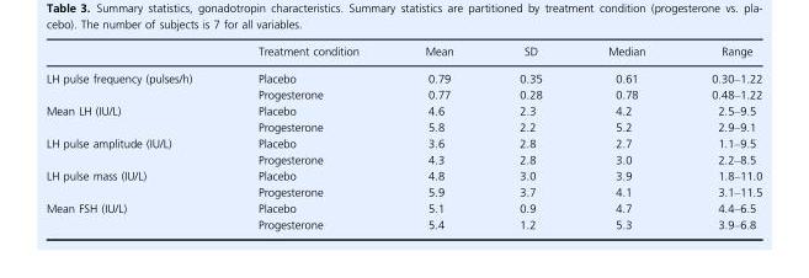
<table><thead><tr><td></td><td>Treatment condition</td><td>Mean</td><td>SD</td><td>Median</td><td>Range</td></tr></thead><tbody><tr><td rowspan="2">LH pulse frequency (pulses/h)</td><td>Placebo</td><td>0.79</td><td>0.35</td><td>0.61</td><td>0.30–1.22</td></tr><tr><td>Progesterone</td><td>0.77</td><td>0.28</td><td>0.78</td><td>0.48–1.22</td></tr><tr><td rowspan="2">Mean LH (IU/L)</td><td>Placebo</td><td>4.6</td><td>2.3</td><td>4.2</td><td>2.5–9.5</td></tr><tr><td>Progesterone</td><td>5.8</td><td>2.2</td><td>5.2</td><td>2.9–9.1</td></tr><tr><td rowspan="2">LH pulse amplitude (IU/L)</td><td>Placebo</td><td>3.6</td><td>2.8</td><td>2.7</td><td>1.1–9.5</td></tr><tr><td>Progesterone</td><td>4.3</td><td>2.8</td><td>3.0</td><td>2.2–8.5</td></tr><tr><td rowspan="2">LH pulse mass (IU/L)</td><td>Placebo</td><td>4.8</td><td>3.0</td><td>3.9</td><td>1.8–11.0</td></tr><tr><td>Progesterone</td><td>5.9</td><td>3.7</td><td>4.1</td><td>3.1–11.5</td></tr><tr><td rowspan="2">Mean FSH (IU/L)</td><td>Placebo</td><td>5.1</td><td>0.9</td><td>4.7</td><td>4.4–6.5</td></tr><tr><td>Progesterone</td><td>5.4</td><td>1.2</td><td>5.3</td><td>3.9–6.8</td></tr></tbody></table>